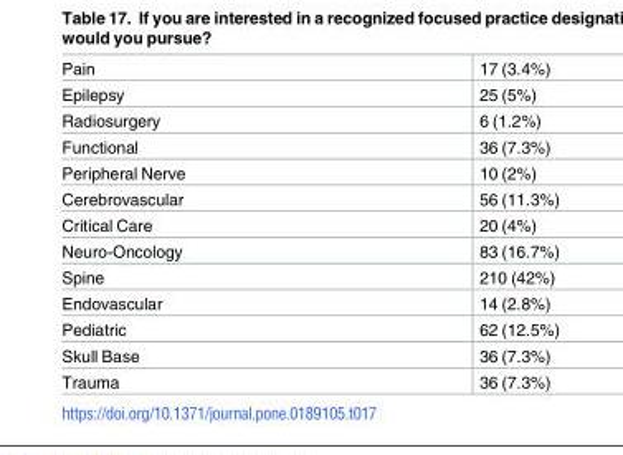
<table><tbody><tr><td>Pain</td><td>17 (3.4%)</td></tr><tr><td>Epilepsy</td><td>25 (5%)</td></tr><tr><td>Radiosurgery</td><td>6 (1.2%)</td></tr><tr><td>Functional</td><td>36 (7.3%)</td></tr><tr><td>Peripheral Nerve</td><td>10 (2%)</td></tr><tr><td>Cerebrovascular</td><td>56 (11.3%)</td></tr><tr><td>Critical Care</td><td>20 (4%)</td></tr><tr><td>Neuro-Oncology</td><td>83 (16.7%)</td></tr><tr><td>Spine</td><td>210 (42%)</td></tr><tr><td>Endovascular</td><td>14 (2.8%)</td></tr><tr><td>Pediatric</td><td>62 (12.5%)</td></tr><tr><td>Skull Base</td><td>36 (7.3%)</td></tr><tr><td>Trauma</td><td>36 (7.3%)</td></tr></tbody></table>